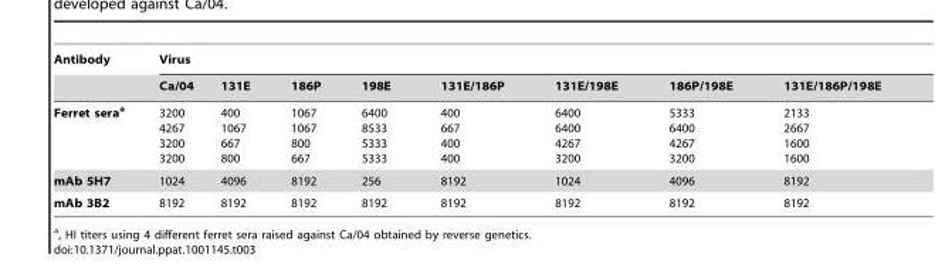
<table><thead><tr><td rowspan="2">Antibody</td><td colspan="8">Virus</td></tr><tr><td>Ca/04</td><td>131E</td><td>186P</td><td>198E</td><td>131E/186P</td><td>131E/198E</td><td>186P/198E</td><td>131E/186P/198E</td></tr></thead><tbody><tr><td>Ferret seraa</td><td>3200 4267 3200 3200</td><td>400 1067 667 800</td><td>1067 1067 800 667</td><td>6400 8533 5333 5333</td><td>400 667 400 400</td><td>6400 6400 4267 3200</td><td>5333 6400 4267 3200</td><td>2133 2667 1600 1600</td></tr><tr><td>mAb 5H7</td><td>1024</td><td>4096</td><td>8192</td><td>256</td><td>8192</td><td>1024</td><td>4096</td><td>8192</td></tr><tr><td>mAb 3B2</td><td>8192</td><td>8192</td><td>8192</td><td>8192</td><td>8192</td><td>8192</td><td>8192</td><td>8192</td></tr></tbody></table>